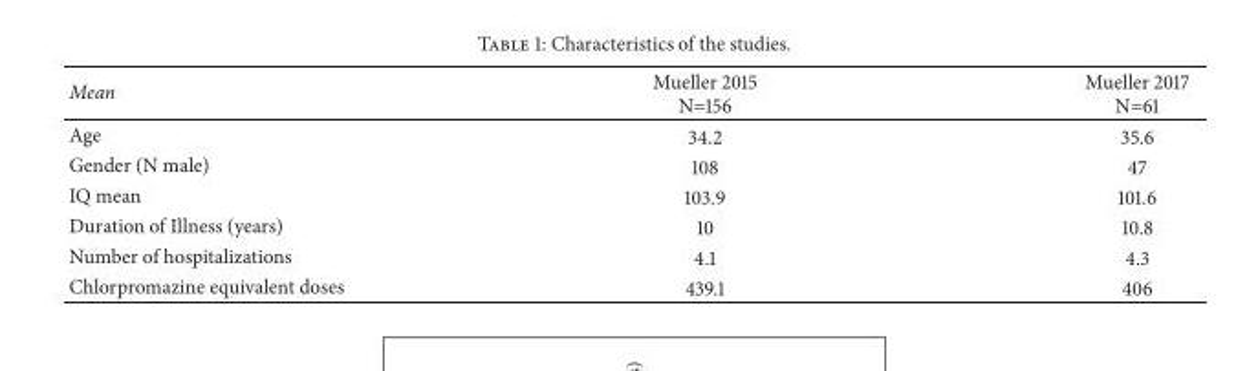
<table><thead><tr><td>Mean</td><td>Mueller 2015 N=156</td><td>Mueller 2017 N=61</td></tr></thead><tbody><tr><td>Age</td><td>34.2</td><td>35.6</td></tr><tr><td>Gender (N male)</td><td>108</td><td>47</td></tr><tr><td>IQ mean</td><td>103.9</td><td>101.6</td></tr><tr><td>Duration of Illness (years)</td><td>10</td><td>10.8</td></tr><tr><td>Number of hospitalizations</td><td>4.1</td><td>4.3</td></tr><tr><td>Chlorpromazine equivalent doses</td><td>439.1</td><td>406</td></tr></tbody></table>